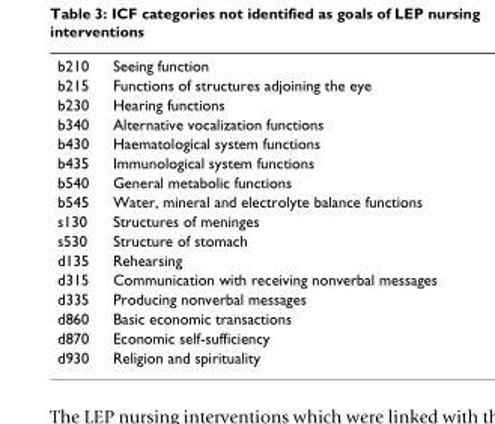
<table><tbody><tr><td>b210</td><td>Seeing function</td></tr><tr><td>b215</td><td>Functions of structures adjoining the eye</td></tr><tr><td>b230</td><td>Hearing functions</td></tr><tr><td>b340</td><td>Alternative vocalization functions</td></tr><tr><td>b430</td><td>Haematological system functions</td></tr><tr><td>b435</td><td>Immunological system functions</td></tr><tr><td>b540</td><td>General metabolic functions</td></tr><tr><td>b545</td><td>Water, mineral and electrolyte balance functions</td></tr><tr><td>s130</td><td>Structures of meninges</td></tr><tr><td>s530</td><td>Structure of stomach</td></tr><tr><td>d135</td><td>Rehearsing</td></tr><tr><td>d315</td><td>Communication with receiving nonverbal messages</td></tr><tr><td>d335</td><td>Producing nonverbal messages</td></tr><tr><td>d860</td><td>Basic economic transactions</td></tr><tr><td>d870</td><td>Economic self-sufficiency</td></tr><tr><td>d930</td><td>Religion and spirituality</td></tr></tbody></table>